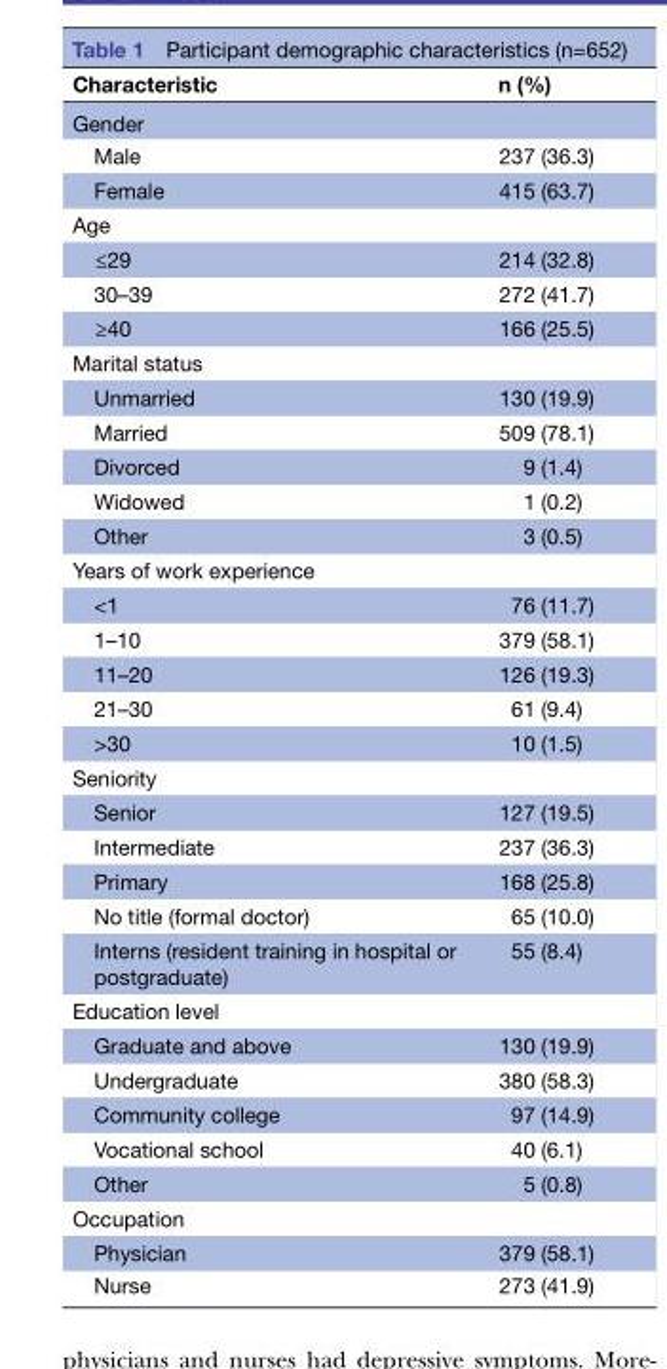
<table><thead><tr><td>Characteristic</td><td>n (%)</td></tr></thead><tbody><tr><td colspan="2">Gender</td></tr><tr><td>Male</td><td>237 (36.3)</td></tr><tr><td>Female</td><td>415 (63.7)</td></tr><tr><td colspan="2">Age</td></tr><tr><td>≤29</td><td>214 (32.8)</td></tr><tr><td>30–39</td><td>272 (41.7)</td></tr><tr><td>≥40</td><td>166 (25.5)</td></tr><tr><td colspan="2">Marital status</td></tr><tr><td>Unmarried</td><td>130 (19.9)</td></tr><tr><td>Married</td><td>509 (78.1)</td></tr><tr><td>Divorced</td><td>9 (1.4)</td></tr><tr><td>Widowed</td><td>1 (0.2)</td></tr><tr><td>Other</td><td>3 (0.5)</td></tr><tr><td colspan="2">Years of work experience</td></tr><tr><td>&lt;1</td><td>76 (11.7)</td></tr><tr><td>1–10</td><td>379 (58.1)</td></tr><tr><td>11–20</td><td>126 (19.3)</td></tr><tr><td>21–30</td><td>61 (9.4)</td></tr><tr><td>&gt;30</td><td>10 (1.5)</td></tr><tr><td colspan="2">Seniority</td></tr><tr><td>Senior</td><td>127 (19.5)</td></tr><tr><td>Intermediate</td><td>237 (36.3)</td></tr><tr><td>Primary</td><td>168 (25.8)</td></tr><tr><td>No title (formal doctor)</td><td>65 (10.0)</td></tr><tr><td>Interns (resident training in hospital or postgraduate)</td><td>55 (8.4)</td></tr><tr><td colspan="2">Education level</td></tr><tr><td>Graduate and above</td><td>130 (19.9)</td></tr><tr><td>Undergraduate</td><td>380 (58.3)</td></tr><tr><td>Community college</td><td>97 (14.9)</td></tr><tr><td>Vocational school</td><td>40 (6.1)</td></tr><tr><td>Other</td><td>5 (0.8)</td></tr><tr><td colspan="2">Occupation</td></tr><tr><td>Physician</td><td>379 (58.1)</td></tr><tr><td>Nurse</td><td>273 (41.9)</td></tr></tbody></table>